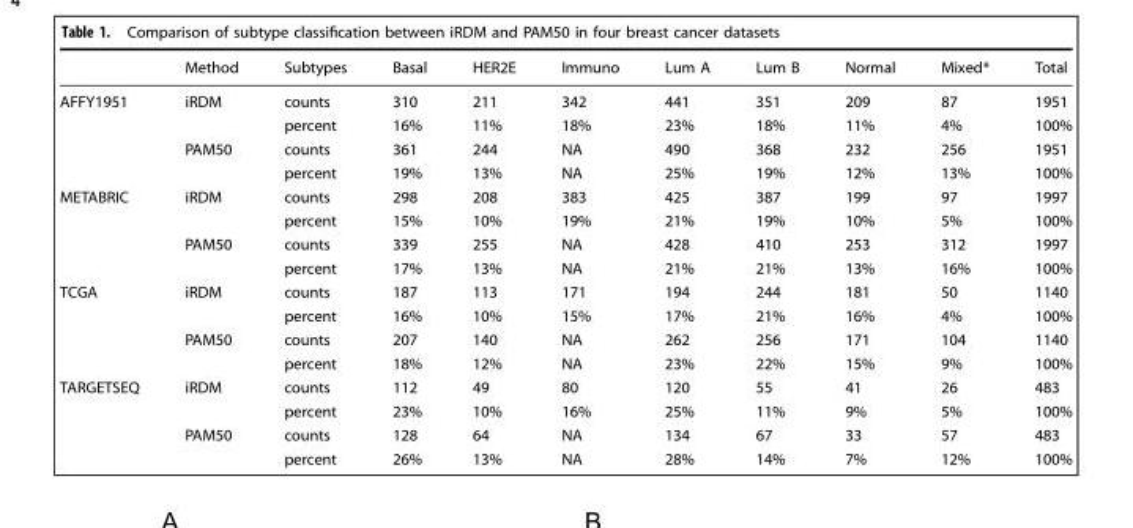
<table><thead><tr><td></td><td>Method</td><td>Subtypes</td><td>Basal</td><td>HER2E</td><td>Immuno</td><td>Lum A</td><td>Lum B</td><td>Normal</td><td>Mixed*</td><td>Total</td></tr></thead><tbody><tr><td rowspan="4">AFFY1951</td><td rowspan="2">iRDM</td><td>counts</td><td>310</td><td>211</td><td>342</td><td>441</td><td>351</td><td>209</td><td>87</td><td>1951</td></tr><tr><td>percent</td><td>16%</td><td>11%</td><td>18%</td><td>23%</td><td>18%</td><td>11%</td><td>4%</td><td>100%</td></tr><tr><td rowspan="2">PAM50</td><td>counts</td><td>361</td><td>244</td><td>NA</td><td>490</td><td>368</td><td>232</td><td>256</td><td>1951</td></tr><tr><td>percent</td><td>19%</td><td>13%</td><td>NA</td><td>25%</td><td>19%</td><td>12%</td><td>13%</td><td>100%</td></tr><tr><td rowspan="4">METABRIC</td><td rowspan="2">iRDM</td><td>counts</td><td>298</td><td>208</td><td>383</td><td>425</td><td>387</td><td>199</td><td>97</td><td>1997</td></tr><tr><td>percent</td><td>15%</td><td>10%</td><td>19%</td><td>21%</td><td>19%</td><td>10%</td><td>5%</td><td>100%</td></tr><tr><td rowspan="2">PAM50</td><td>counts</td><td>339</td><td>255</td><td>NA</td><td>428</td><td>410</td><td>253</td><td>312</td><td>1997</td></tr><tr><td>percent</td><td>17%</td><td>13%</td><td>NA</td><td>21%</td><td>21%</td><td>13%</td><td>16%</td><td>100%</td></tr><tr><td rowspan="4">TCGA</td><td rowspan="2">iRDM</td><td>counts</td><td>187</td><td>113</td><td>171</td><td>194</td><td>244</td><td>181</td><td>50</td><td>1140</td></tr><tr><td>percent</td><td>16%</td><td>10%</td><td>15%</td><td>17%</td><td>21%</td><td>16%</td><td>4%</td><td>100%</td></tr><tr><td rowspan="2">PAM50</td><td>counts</td><td>207</td><td>140</td><td>NA</td><td>262</td><td>256</td><td>171</td><td>104</td><td>1140</td></tr><tr><td>percent</td><td>18%</td><td>12%</td><td>NA</td><td>23%</td><td>22%</td><td>15%</td><td>9%</td><td>100%</td></tr><tr><td rowspan="4">TARGETSEQ</td><td rowspan="2">iRDM</td><td>counts</td><td>112</td><td>49</td><td>80</td><td>120</td><td>55</td><td>41</td><td>26</td><td>483</td></tr><tr><td>percent</td><td>23%</td><td>10%</td><td>16%</td><td>25%</td><td>11%</td><td>9%</td><td>5%</td><td>100%</td></tr><tr><td rowspan="2">PAM50</td><td>counts</td><td>128</td><td>64</td><td>NA</td><td>134</td><td>67</td><td>33</td><td>57</td><td>483</td></tr><tr><td>percent</td><td>26%</td><td>13%</td><td>NA</td><td>28%</td><td>14%</td><td>7%</td><td>12%</td><td>100%</td></tr></tbody></table>